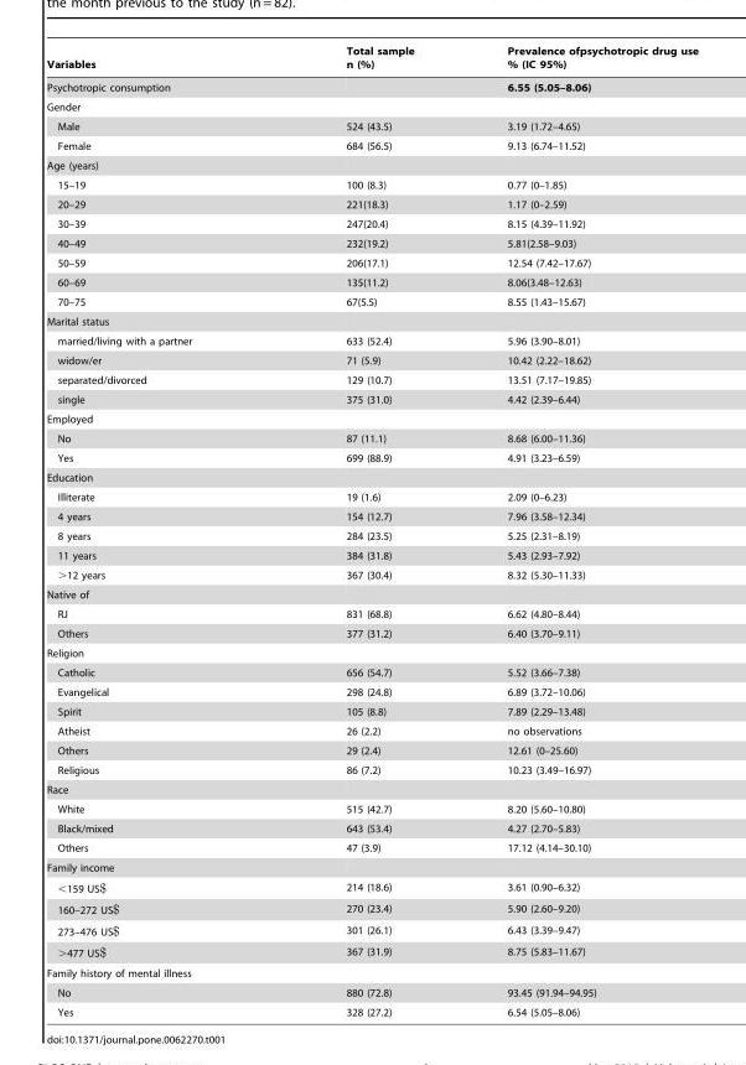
<table><thead><tr><td>Variables</td><td>Total sample n (%)</td><td>Prevalence ofpsychotropic drug use % (IC 95%)</td></tr></thead><tbody><tr><td>Psychotropic consumption</td><td></td><td>6.55 (5.05–8.06)</td></tr><tr><td colspan="3">Gender</td></tr><tr><td>Male</td><td>524 (43.5)</td><td>3.19 (1.72–4.65)</td></tr><tr><td>Female</td><td>684 (56.5)</td><td>9.13 (6.74–11.52)</td></tr><tr><td colspan="3">Age (years)</td></tr><tr><td>15–19</td><td>100 (8.3)</td><td>0.77 (0–1.85)</td></tr><tr><td>20–29</td><td>221(18.3)</td><td>1.17 (0–2.59)</td></tr><tr><td>30–39</td><td>247(20.4)</td><td>8.15 (4.39–11.92)</td></tr><tr><td>40–49</td><td>232(19.2)</td><td>5.81(2.58–9.03)</td></tr><tr><td>50–59</td><td>206(17.1)</td><td>12.54 (7.42–17.67)</td></tr><tr><td>60–69</td><td>135(11.2)</td><td>8.06(3.48–12.63)</td></tr><tr><td>70–75</td><td>67(5.5)</td><td>8.55 (1.43–15.67)</td></tr><tr><td colspan="3">Marital status</td></tr><tr><td>married/living with a partner</td><td>633 (52.4)</td><td>5.96 (3.90–8.01)</td></tr><tr><td>widow/er</td><td>71 (5.9)</td><td>10.42 (2.22–18.62)</td></tr><tr><td>separated/divorced</td><td>129 (10.7)</td><td>13.51 (7.17–19.85)</td></tr><tr><td>single</td><td>375 (31.0)</td><td>4.42 (2.39–6.44)</td></tr><tr><td colspan="3">Employed</td></tr><tr><td>No</td><td>87 (11.1)</td><td>8.68 (6.00–11.36)</td></tr><tr><td>Yes</td><td>699 (88.9)</td><td>4.91 (3.23–6.59)</td></tr><tr><td colspan="3">Education</td></tr><tr><td>Illiterate</td><td>19 (1.6)</td><td>2.09 (0–6.23)</td></tr><tr><td>4 years</td><td>154 (12.7)</td><td>7.96 (3.58–12.34)</td></tr><tr><td>8 years</td><td>284 (23.5)</td><td>5.25 (2.31–8.19)</td></tr><tr><td>11 years</td><td>384 (31.8)</td><td>5.43 (2.93–7.92)</td></tr><tr><td>&gt;12 years</td><td>367 (30.4)</td><td>8.32 (5.30–11.33)</td></tr><tr><td colspan="3">Native of</td></tr><tr><td>RJ</td><td>831 (68.8)</td><td>6.62 (4.80–8.44)</td></tr><tr><td>Others</td><td>377 (31.2)</td><td>6.40 (3.70–9.11)</td></tr><tr><td colspan="3">Religion</td></tr><tr><td>Catholic</td><td>656 (54.7)</td><td>5.52 (3.66–7.38)</td></tr><tr><td>Evangelical</td><td>298 (24.8)</td><td>6.89 (3.72–10.06)</td></tr><tr><td>Spirit</td><td>105 (8.8)</td><td>7.89 (2.29–13.48)</td></tr><tr><td>Atheist</td><td>26 (2.2)</td><td>no observations</td></tr><tr><td>Others</td><td>29 (2.4)</td><td>12.61 (0–25.60)</td></tr><tr><td>Religious</td><td>86 (7.2)</td><td>10.23 (3.49–16.97)</td></tr><tr><td colspan="3">Race</td></tr><tr><td>White</td><td>515 (42.7)</td><td>8.20 (5.60–10.80)</td></tr><tr><td>Black/mixed</td><td>643 (53.4)</td><td>4.27 (2.70–5.83)</td></tr><tr><td>Others</td><td>47 (3.9)</td><td>17.12 (4.14–30.10)</td></tr><tr><td colspan="3">Family income</td></tr><tr><td>&lt;159 US$</td><td>214 (18.6)</td><td>3.61 (0.90–6.32)</td></tr><tr><td>160–272 US$</td><td>270 (23.4)</td><td>5.90 (2.60–9.20)</td></tr><tr><td>273–476 US$</td><td>301 (26.1)</td><td>6.43 (3.39–9.47)</td></tr><tr><td>&gt;477 US$</td><td>367 (31.9)</td><td>8.75 (5.83–11.67)</td></tr><tr><td colspan="3">Family history of mental illness</td></tr><tr><td>No</td><td>880 (72.8)</td><td>93.45 (91.94–94.95)</td></tr><tr><td>Yes</td><td>328 (27.2)</td><td>6.54 (5.05–8.06)</td></tr></tbody></table>